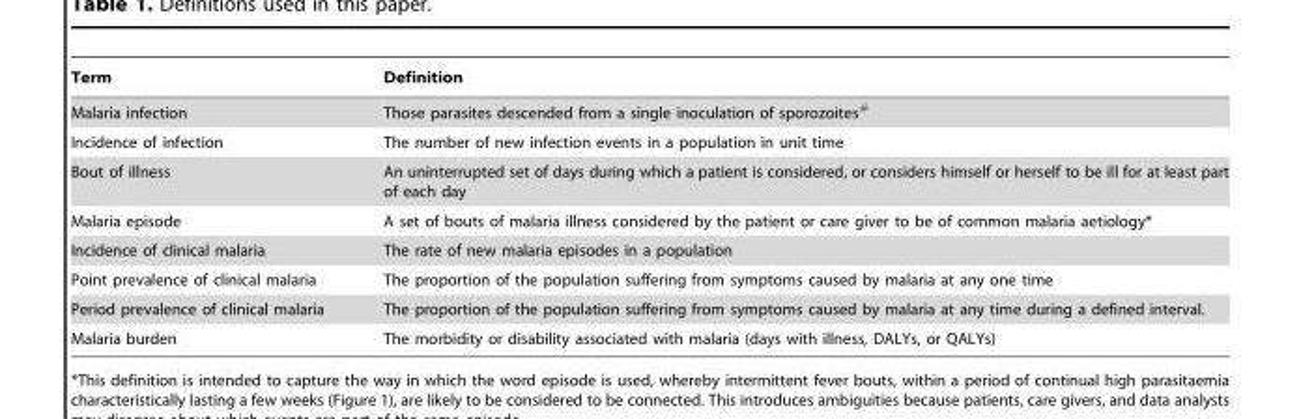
<table><thead><tr><td>Term</td><td>Definition</td></tr></thead><tbody><tr><td>Malaria infection</td><td>Those parasites descended from a single inoculation of sporozoites#</td></tr><tr><td>Incidence of infection</td><td>The number of new infection events in a population in unit time</td></tr><tr><td>Bout of illness</td><td>An uninterrupted set of days during which a patient is considered, or considers himself or herself to be ill for at least part of each day</td></tr><tr><td>Malaria episode</td><td>A set of bouts of malaria illness considered by the patient or care giver to be of common malaria aetiology*</td></tr><tr><td>Incidence of clinical malaria</td><td>The rate of new malaria episodes in a population</td></tr><tr><td>Point prevalence of clinical malaria</td><td>The proportion of the population suffering from symptoms caused by malaria at any one time</td></tr><tr><td>Period prevalence of clinical malaria</td><td>The proportion of the population suffering from symptoms caused by malaria at any time during a defined interval.</td></tr><tr><td>Malaria burden</td><td>The morbidity or disability associated with malaria (days with illness, DALYs, or QALYs)</td></tr></tbody></table>